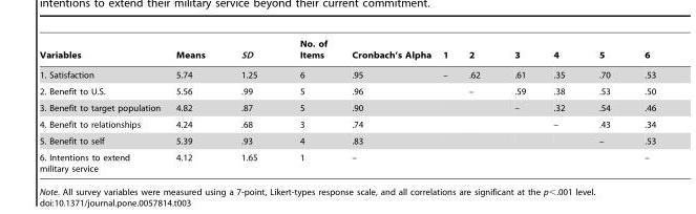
<table><thead><tr><td>Variables</td><td>Means</td><td>SD</td><td>No. of Items</td><td>Cronbach’s Alpha</td><td>1</td><td>2</td><td>3</td><td>4</td><td>5</td><td>6</td></tr></thead><tbody><tr><td>1. Satisfaction</td><td>5.74</td><td>1.25</td><td>6</td><td>.95</td><td>–</td><td>.62</td><td>.61</td><td>.35</td><td>.70</td><td>.53</td></tr><tr><td>2. Benefit to U.S.</td><td>5.56</td><td>.99</td><td>5</td><td>.96</td><td></td><td>–</td><td>.59</td><td>.38</td><td>.53</td><td>.50</td></tr><tr><td>3. Benefit to target population</td><td>4.82</td><td>.87</td><td>5</td><td>.90</td><td></td><td></td><td>–</td><td>.32</td><td>.54</td><td>.46</td></tr><tr><td>4. Benefit to relationships</td><td>4.24</td><td>.68</td><td>3</td><td>.74</td><td></td><td></td><td></td><td>–</td><td>.43</td><td>.34</td></tr><tr><td>5. Benefit to self</td><td>5.39</td><td>.93</td><td>4</td><td>.83</td><td></td><td></td><td></td><td></td><td>–</td><td>.53</td></tr><tr><td>6. Intentions to extend military service</td><td>4.12</td><td>1.65</td><td>1</td><td>–</td><td></td><td></td><td></td><td></td><td></td><td>–</td></tr></tbody></table>